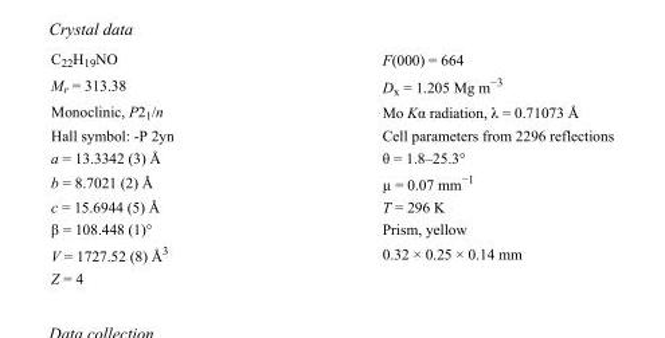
<table><tbody><tr><td>C<sub>22</sub>H<sub>19</sub>NO</td><td>F(000) = 664</td></tr><tr><td>M<sub>r</sub> = 313.38</td><td>D<sub>x</sub> = 1.205 Mg m<sup>−3</sup></td></tr><tr><td>Monoclinic, P2<sub>1</sub>/n</td><td>Mo Kα radiation, λ = 0.71073 Å</td></tr><tr><td>Hall symbol: -P 2yn</td><td>Cell parameters from 2296 reflections</td></tr><tr><td>a = 13.3342 (3) Å</td><td>θ = 1.8–25.3°</td></tr><tr><td>b = 8.7021 (2) Å</td><td>µ = 0.07 mm<sup>−1</sup></td></tr><tr><td>c = 15.6944 (5) Å</td><td>T = 296 K</td></tr><tr><td>β = 108.448 (1)°</td><td>Prism, yellow</td></tr><tr><td>V = 1727.52 (8) Å<sup>3</sup></td><td>0.32 × 0.25 × 0.14 mm</td></tr><tr><td>Z = 4</td><td></td></tr></tbody></table>